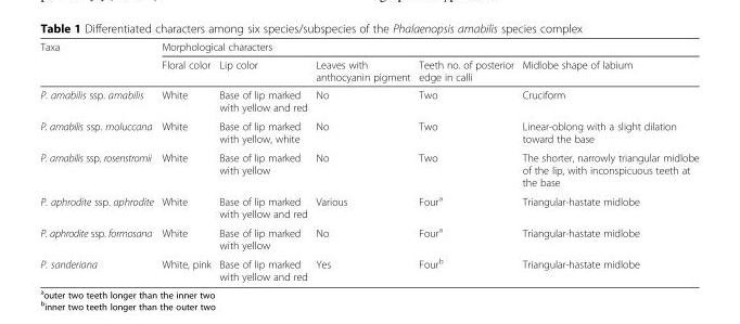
<table><thead><tr><td rowspan="2">Taxa</td><td colspan="5">Morphological characters</td></tr><tr><td>Floral color</td><td>Lip color</td><td>Leaves with anthocyanin pigment</td><td>Teeth no. of posterior edge in calli</td><td>Midlobe shape of labium</td></tr></thead><tbody><tr><td>P. amabilis ssp. amabilis</td><td>White</td><td>Base of lip marked with yellow and red</td><td>No</td><td>Two</td><td>Cruciform</td></tr><tr><td>P. amabilis ssp. moluccana</td><td>White</td><td>Base of lip marked with yellow, white</td><td>No</td><td>Two</td><td>Linear-oblong with a slight dilation toward the base</td></tr><tr><td>P. amabilis ssp. rosenstromii</td><td>White</td><td>Base of lip marked with yellow</td><td>No</td><td>Two</td><td>The shorter, narrowly triangular midlobe of the lip, with inconspicuous teeth at the base</td></tr><tr><td>P. aphrodite ssp. aphrodite</td><td>White</td><td>Base of lip marked with yellow and red</td><td>Various</td><td>Four<sup>a</sup></td><td>Triangular-hastate midlobe</td></tr><tr><td>P. aphrodite ssp. formosana</td><td>White</td><td>Base of lip marked with yellow</td><td>No</td><td>Four<sup>a</sup></td><td>Triangular-hastate midlobe</td></tr><tr><td>P. sanderiana</td><td>White, pink</td><td>Base of lip marked with yellow and red</td><td>Yes</td><td>Four<sup>b</sup></td><td>Triangular-hastate midlobe</td></tr></tbody></table>